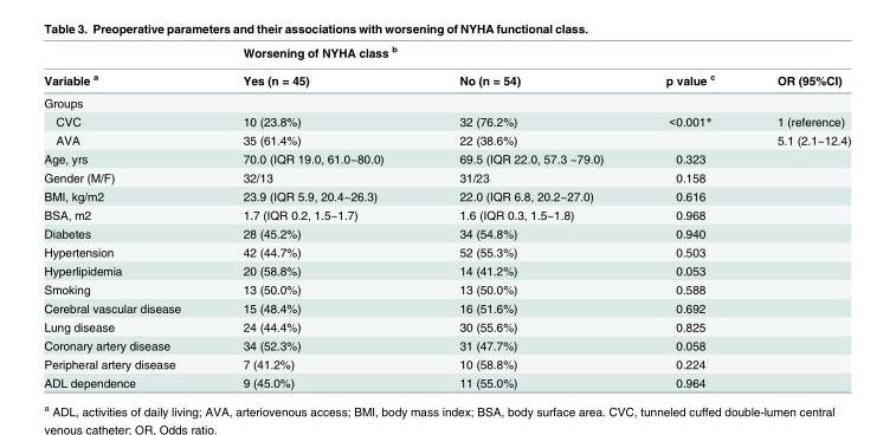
<table><thead><tr><td rowspan="2">Variable <sup>a</sup></td><td rowspan="2">Worsening of NYHA class <sup>b</sup> Yes (n = 45)</td><td rowspan="2">No (n = 54)</td><td rowspan="2">p value <sup>c</sup></td><td rowspan="2">OR (95%CI)</td></tr><tr></tr></thead><tbody><tr><td colspan="5">Groups</td></tr><tr><td>CVC</td><td>10 (23.8%)</td><td>32 (76.2%)</td><td>&lt;0.001*</td><td>1 (reference)</td></tr><tr><td>AVA</td><td>35 (61.4%)</td><td>22 (38.6%)</td><td></td><td>5.1 (2.1~12.4)</td></tr><tr><td>Age, yrs</td><td>70.0 (IQR 19.0, 61.0~80.0)</td><td>69.5 (IQR 22.0, 57.3 ~79.0)</td><td>0.323</td><td></td></tr><tr><td>Gender (M/F)</td><td>32/13</td><td>31/23</td><td>0.158</td><td></td></tr><tr><td>BMI, kg/m2</td><td>23.9 (IQR 5.9, 20.4~26.3)</td><td>22.0 (IQR 6.8, 20.2~27.0)</td><td>0.616</td><td></td></tr><tr><td>BSA, m2</td><td>1.7 (IQR 0.2, 1.5~1.7)</td><td>1.6 (IQR 0.3, 1.5~1.8)</td><td>0.968</td><td></td></tr><tr><td>Diabetes</td><td>28 (45.2%)</td><td>34 (54.8%)</td><td>0.940</td><td></td></tr><tr><td>Hypertension</td><td>42 (44.7%)</td><td>52 (55.3%)</td><td>0.503</td><td></td></tr><tr><td>Hyperlipidemia</td><td>20 (58.8%)</td><td>14 (41.2%)</td><td>0.053</td><td></td></tr><tr><td>Smoking</td><td>13 (50.0%)</td><td>13 (50.0%)</td><td>0.588</td><td></td></tr><tr><td>Cerebral vascular disease</td><td>15 (48.4%)</td><td>16 (51.6%)</td><td>0.692</td><td></td></tr><tr><td>Lung disease</td><td>24 (44.4%)</td><td>30 (55.6%)</td><td>0.825</td><td></td></tr><tr><td>Coronary artery disease</td><td>34 (52.3%)</td><td>31 (47.7%)</td><td>0.058</td><td></td></tr><tr><td>Peripheral artery disease</td><td>7 (41.2%)</td><td>10 (58.8%)</td><td>0.224</td><td></td></tr><tr><td>ADL dependence</td><td>9 (45.0%)</td><td>11 (55.0%)</td><td>0.964</td><td></td></tr></tbody></table>